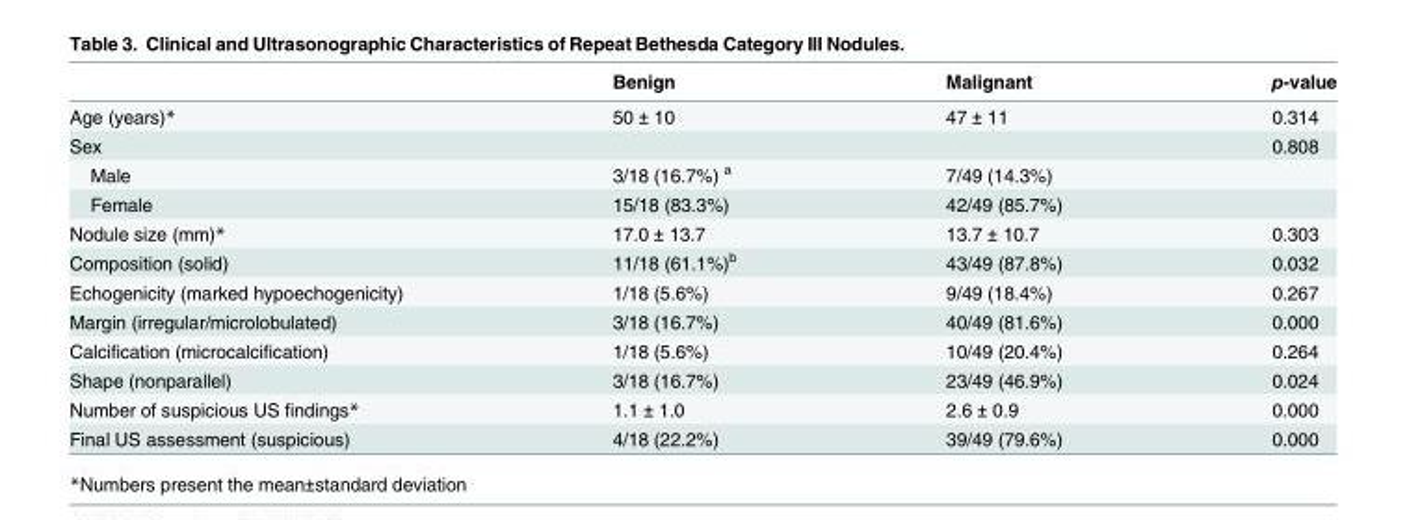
<table><thead><tr><td></td><td>Benign</td><td>Malignant</td><td>p-value</td></tr></thead><tbody><tr><td>Age (years)*</td><td>50 ± 10</td><td>47 ± 11</td><td>0.314</td></tr><tr><td>Sex</td><td></td><td></td><td>0.808</td></tr><tr><td>Male</td><td>3/18 (16.7%) <sup>a</sup></td><td>7/49 (14.3%)</td><td></td></tr><tr><td>Female</td><td>15/18 (83.3%)</td><td>42/49 (85.7%)</td><td></td></tr><tr><td>Nodule size (mm)*</td><td>17.0 ± 13.7</td><td>13.7 ± 10.7</td><td>0.303</td></tr><tr><td>Composition (solid)</td><td>11/18 (61.1%)<sup>b</sup></td><td>43/49 (87.8%)</td><td>0.032</td></tr><tr><td>Echogenicity (marked hypoechogenicity)</td><td>1/18 (5.6%)</td><td>9/49 (18.4%)</td><td>0.267</td></tr><tr><td>Margin (irregular/microlobulated)</td><td>3/18 (16.7%)</td><td>40/49 (81.6%)</td><td>0.000</td></tr><tr><td>Calcification (microcalcification)</td><td>1/18 (5.6%)</td><td>10/49 (20.4%)</td><td>0.264</td></tr><tr><td>Shape (nonparallel)</td><td>3/18 (16.7%)</td><td>23/49 (46.9%)</td><td>0.024</td></tr><tr><td>Number of suspicious US findings*</td><td>1.1 ± 1.0</td><td>2.6 ± 0.9</td><td>0.000</td></tr><tr><td>Final US assessment (suspicious)</td><td>4/18 (22.2%)</td><td>39/49 (79.6%)</td><td>0.000</td></tr></tbody></table>